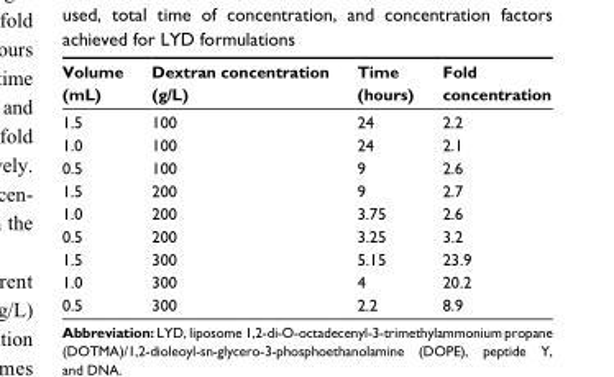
<table><thead><tr><td>Volume (mL)</td><td>Dextran concentration (g/L)</td><td>Time (hours)</td><td>Fold concentration</td></tr></thead><tbody><tr><td>1.5</td><td>100</td><td>24</td><td>2.2</td></tr><tr><td>1.0</td><td>100</td><td>24</td><td>2.1</td></tr><tr><td>0.5</td><td>100</td><td>9</td><td>2.6</td></tr><tr><td>1.5</td><td>200</td><td>9</td><td>2.7</td></tr><tr><td>1.0</td><td>200</td><td>3.75</td><td>2.6</td></tr><tr><td>0.5</td><td>200</td><td>3.25</td><td>3.2</td></tr><tr><td>1.5</td><td>300</td><td>5.15</td><td>23.9</td></tr><tr><td>1.0</td><td>300</td><td>4</td><td>20.2</td></tr><tr><td>0.5</td><td>300</td><td>2.2</td><td>8.9</td></tr></tbody></table>